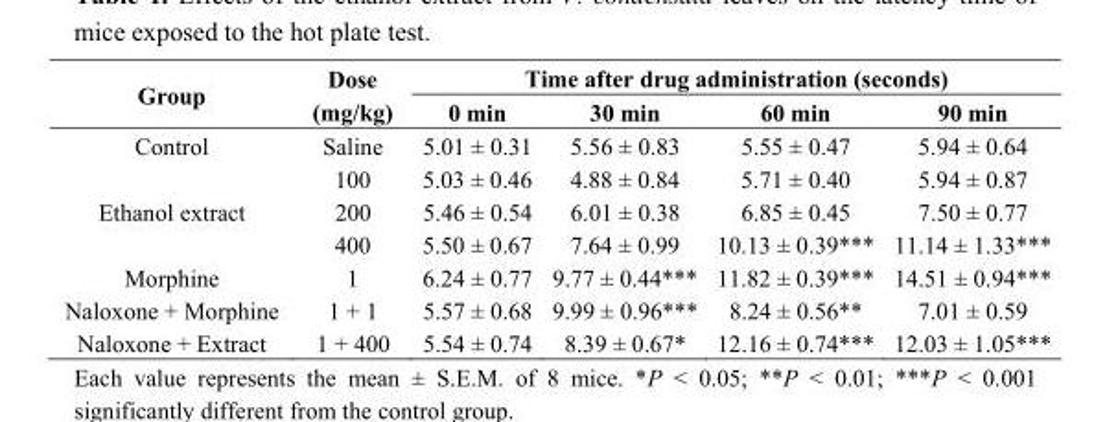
<table><thead><tr><td rowspan="2">Group</td><td rowspan="2">Dose (mg/kg)</td><td colspan="4">Time after drug administration (seconds)</td></tr><tr><td>0 min</td><td>30 min</td><td>60 min</td><td>90 min</td></tr></thead><tbody><tr><td rowspan="2">Control</td><td>Saline</td><td>5.01 ± 0.31</td><td>5.56 ± 0.83</td><td>5.55 ± 0.47</td><td>5.94 ± 0.64</td></tr><tr><td>100</td><td>5.03 ± 0.46</td><td>4.88 ± 0.84</td><td>5.71 ± 0.40</td><td>5.94 ± 0.87</td></tr><tr><td rowspan="2">Ethanol extract</td><td>200</td><td>5.46 ± 0.54</td><td>6.01 ± 0.38</td><td>6.85 ± 0.45</td><td>7.50 ± 0.77</td></tr><tr><td>400</td><td>5.50 ± 0.67</td><td>7.64 ± 0.99</td><td>10.13 ± 0.39***</td><td>11.14 ± 1.33***</td></tr><tr><td>Morphine</td><td>1</td><td>6.24 ± 0.77</td><td>9.77 ± 0.44***</td><td>11.82 ± 0.39***</td><td>14.51 ± 0.94***</td></tr><tr><td>Naloxone + Morphine</td><td>1 + 1</td><td>5.57 ± 0.68</td><td>9.99 ± 0.96***</td><td>8.24 ± 0.56**</td><td>7.01 ± 0.59</td></tr><tr><td>Naloxone + Extract</td><td>1 + 400</td><td>5.54 ± 0.74</td><td>8.39 ± 0.67*</td><td>12.16 ± 0.74***</td><td>12.03 ± 1.05***</td></tr></tbody></table>